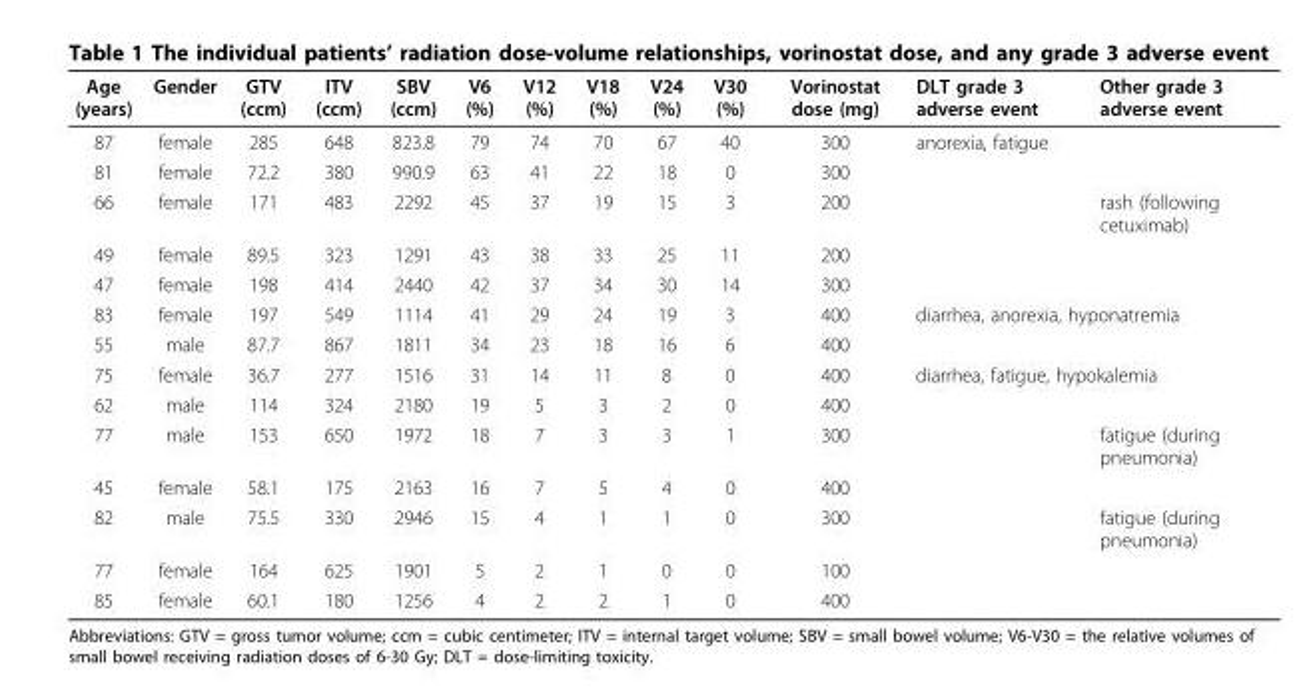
<table><thead><tr><td>Age (years)</td><td>Gender</td><td>GTV (ccm)</td><td>ITV (ccm)</td><td>SBV (ccm)</td><td>V6 (%)</td><td>V12 (%)</td><td>V18 (%)</td><td>V24 (%)</td><td>V30 (%)</td><td>Vorinostat dose (mg)</td><td>DLT grade 3 adverse event</td><td>Other grade 3 adverse event</td></tr></thead><tbody><tr><td>87</td><td>female</td><td>285</td><td>648</td><td>823.8</td><td>79</td><td>74</td><td>70</td><td>67</td><td>40</td><td>300</td><td colspan="2">anorexia, fatigue</td></tr><tr><td>81</td><td>female</td><td>72.2</td><td>380</td><td>990.9</td><td>63</td><td>41</td><td>22</td><td>18</td><td>0</td><td>300</td><td></td><td></td></tr><tr><td>66</td><td>female</td><td>171</td><td>483</td><td>2292</td><td>45</td><td>37</td><td>19</td><td>15</td><td>3</td><td>200</td><td></td><td>rash (following cetuximab)</td></tr><tr><td>49</td><td>female</td><td>89.5</td><td>323</td><td>1291</td><td>43</td><td>38</td><td>33</td><td>25</td><td>11</td><td>200</td><td></td><td></td></tr><tr><td>47</td><td>female</td><td>198</td><td>414</td><td>2440</td><td>42</td><td>37</td><td>34</td><td>30</td><td>14</td><td>300</td><td></td><td></td></tr><tr><td>83</td><td>female</td><td>197</td><td>549</td><td>1114</td><td>41</td><td>29</td><td>24</td><td>19</td><td>3</td><td>400</td><td colspan="2">diarrhea, anorexia, hyponatremia</td></tr><tr><td>55</td><td>male</td><td>87.7</td><td>867</td><td>1811</td><td>34</td><td>23</td><td>18</td><td>16</td><td>6</td><td>400</td><td></td><td></td></tr><tr><td>75</td><td>female</td><td>36.7</td><td>277</td><td>1516</td><td>31</td><td>14</td><td>11</td><td>8</td><td>0</td><td>400</td><td colspan="2">diarrhea, fatigue, hypokalemia</td></tr><tr><td>62</td><td>male</td><td>114</td><td>324</td><td>2180</td><td>19</td><td>5</td><td>3</td><td>2</td><td>0</td><td>400</td><td></td><td></td></tr><tr><td>77</td><td>male</td><td>153</td><td>650</td><td>1972</td><td>18</td><td>7</td><td>3</td><td>3</td><td>1</td><td>300</td><td></td><td>fatigue (during pneumonia)</td></tr><tr><td>45</td><td>female</td><td>58.1</td><td>175</td><td>2163</td><td>16</td><td>7</td><td>5</td><td>4</td><td>0</td><td>400</td><td></td><td></td></tr><tr><td>82</td><td>male</td><td>75.5</td><td>330</td><td>2946</td><td>15</td><td>4</td><td>1</td><td>1</td><td>0</td><td>300</td><td></td><td>fatigue (during pneumonia)</td></tr><tr><td>77</td><td>female</td><td>164</td><td>625</td><td>1901</td><td>5</td><td>2</td><td>1</td><td>0</td><td>0</td><td>100</td><td></td><td></td></tr><tr><td>85</td><td>female</td><td>60.1</td><td>180</td><td>1256</td><td>4</td><td>2</td><td>2</td><td>1</td><td>0</td><td>400</td><td></td><td></td></tr></tbody></table>